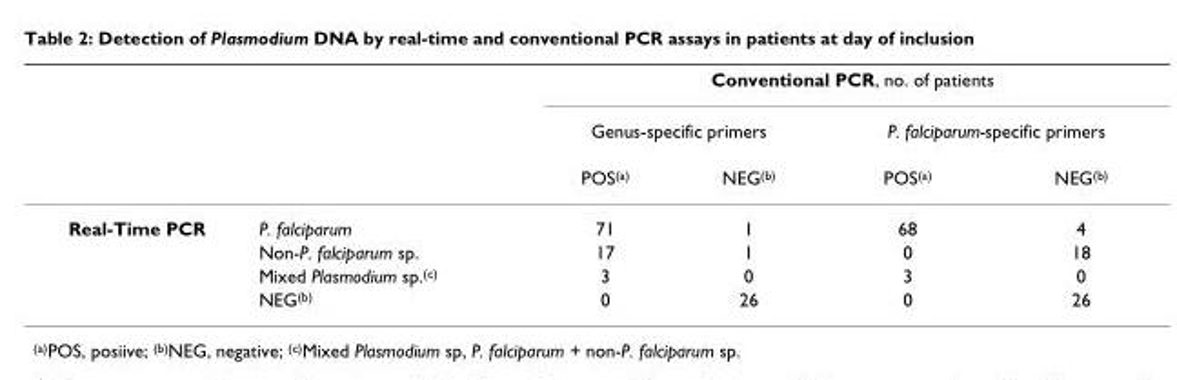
<table><thead><tr><td rowspan="3"></td><td rowspan="3"></td><td colspan="4">Conventional PCR, no. of patients</td></tr><tr><td colspan="2">Genus-specific primers</td><td colspan="2">P. falciparum-specific primers</td></tr><tr><td>POS<sup>(a)</sup></td><td>NEG<sup>(b)</sup></td><td>POS<sup>(a)</sup></td><td>NEG<sup>(b)</sup></td></tr></thead><tbody><tr><td rowspan="4">Real-Time PCR</td><td>P. falciparum</td><td>71</td><td>1</td><td>68</td><td>4</td></tr><tr><td>Non-P. falciparum sp.</td><td>17</td><td>1</td><td>0</td><td>18</td></tr><tr><td>Mixed Plasmodium sp.<sup>(c)</sup></td><td>3</td><td>0</td><td>3</td><td>0</td></tr><tr><td>NEG<sup>(b)</sup></td><td>0</td><td>26</td><td>0</td><td>26</td></tr></tbody></table>